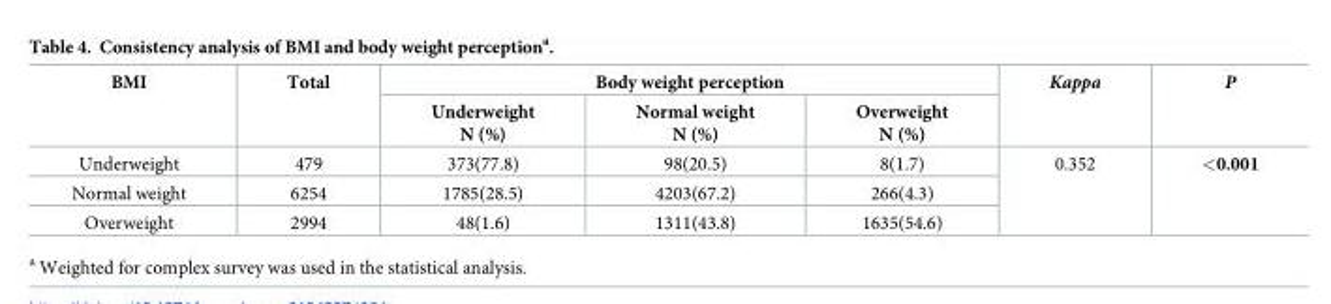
<table><thead><tr><td rowspan="2">BMI</td><td rowspan="2">Total</td><td colspan="3">Body weight perception</td><td rowspan="2">Kappa</td><td rowspan="2">P</td></tr><tr><td>Underweight N (%)</td><td>Normal weight N (%)</td><td>Overweight N (%)</td></tr></thead><tbody><tr><td>Underweight</td><td>479</td><td>373(77.8)</td><td>98(20.5)</td><td>8(1.7)</td><td rowspan="3">0.352</td><td rowspan="3">&lt;0.001</td></tr><tr><td>Normal weight</td><td>6254</td><td>1785(28.5)</td><td>4203(67.2)</td><td>266(4.3)</td></tr><tr><td>Overweight</td><td>2994</td><td>48(1.6)</td><td>1311(43.8)</td><td>1635(54.6)</td></tr></tbody></table>